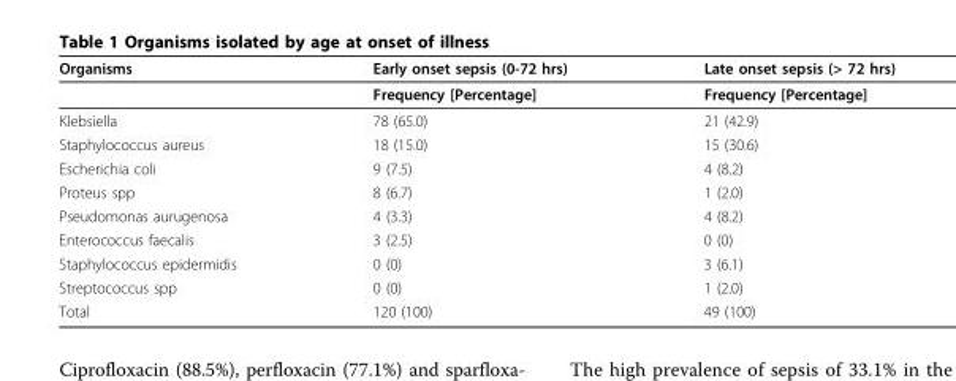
<table><thead><tr><td>Organisms</td><td>Early onset sepsis (0-72 hrs)</td><td>Late onset sepsis (&gt; 72 hrs)</td></tr></thead><tbody><tr><td></td><td>Frequency [Percentage]</td><td>Frequency [Percentage]</td></tr><tr><td>Klebsiella</td><td>78 (65.0)</td><td>21 (42.9)</td></tr><tr><td>Staphylococcus aureus</td><td>18 (15.0)</td><td>15 (30.6)</td></tr><tr><td>Escherichia coli</td><td>9 (7.5)</td><td>4 (8.2)</td></tr><tr><td>Proteus spp</td><td>8 (6.7)</td><td>1 (2.0)</td></tr><tr><td>Pseudomonas aurugenosa</td><td>4 (3.3)</td><td>4 (8.2)</td></tr><tr><td>Enterococcus faecalis</td><td>3 (2.5)</td><td>0 (0)</td></tr><tr><td>Staphylococcus epidermidis</td><td>0 (0)</td><td>3 (6.1)</td></tr><tr><td>Streptococcus spp</td><td>0 (0)</td><td>1 (2.0)</td></tr><tr><td>Total</td><td>120 (100)</td><td>49 (100)</td></tr></tbody></table>